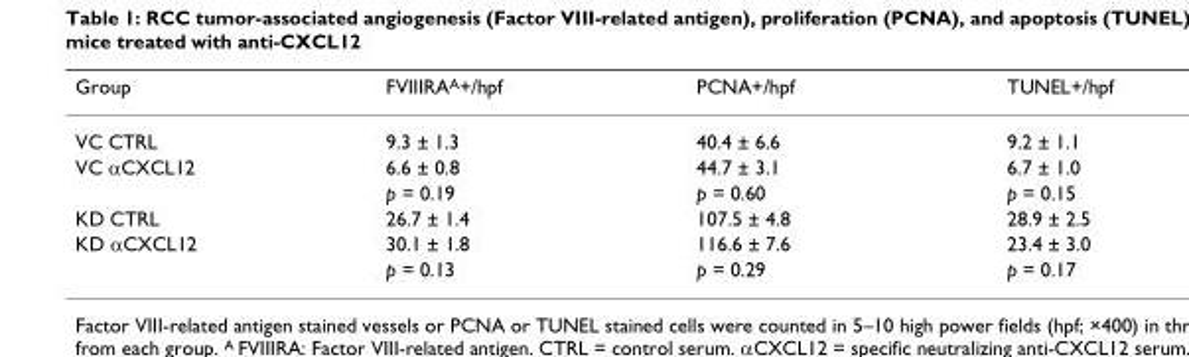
<table><thead><tr><td>Group</td><td>FVIIIRA<sup>A</sup>+/hpf</td><td>PCNA+/hpf</td><td>TUNEL+/hpf</td></tr></thead><tbody><tr><td>VC CTRL</td><td>9.3 ± 1.3</td><td>40.4 ± 6.6</td><td>9.2 ± 1.1</td></tr><tr><td rowspan="2">VC αCXCL12</td><td>6.6 ± 0.8</td><td>44.7 ± 3.1</td><td>6.7 ± 1.0</td></tr><tr><td>p = 0.19</td><td>p = 0.60</td><td>p = 0.15</td></tr><tr><td>KD CTRL</td><td>26.7 ± 1.4</td><td>107.5 ± 4.8</td><td>28.9 ± 2.5</td></tr><tr><td rowspan="2">KD αCXCL12</td><td>30.1 ± 1.8</td><td>116.6 ± 7.6</td><td>23.4 ± 3.0</td></tr><tr><td>p = 0.13</td><td>p = 0.29</td><td>p = 0.17</td></tr></tbody></table>